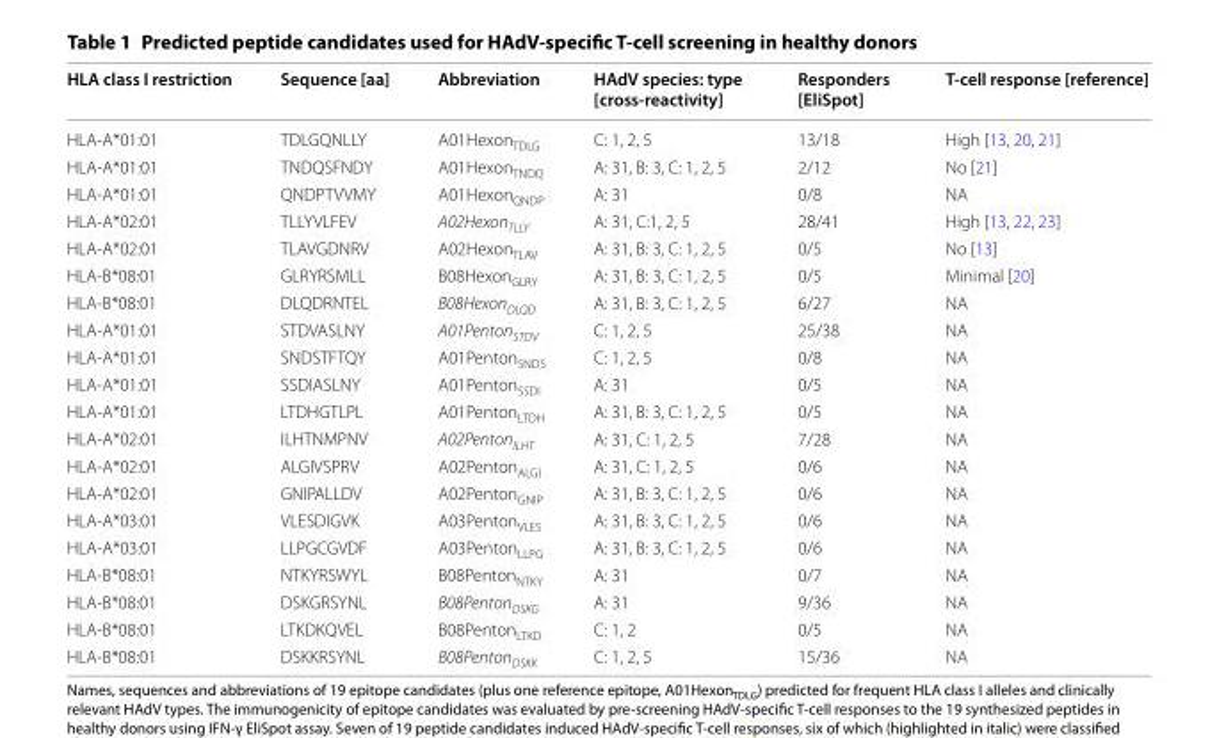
<table><thead><tr><td>HLA class I restriction</td><td>Sequence [aa]</td><td>Abbreviation</td><td>HAdV species: type [cross-reactivity]</td><td>Responders [EliSpot]</td><td>T-cell response [reference]</td></tr></thead><tbody><tr><td>HLA‑A*01:01</td><td>TDLGQNLLY</td><td>A01Hexon<sub>TDLG</sub></td><td>C: 1, 2, 5</td><td>13/18</td><td>High [13, 20, 21]</td></tr><tr><td>HLA‑A*01:01</td><td>TNDQSFNDY</td><td>A01Hexon<sub>TNDQ</sub></td><td>A: 31, B: 3, C: 1, 2, 5</td><td>2/12</td><td>No [21]</td></tr><tr><td>HLA‑A*01:01</td><td>QNDPTVVMY</td><td>A01Hexon<sub>QNDP</sub></td><td>A: 31</td><td>0/8</td><td>NA</td></tr><tr><td>HLA‑A*02:01</td><td>TLLYVLFEV</td><td>A02Hexon<sub>TLLY</sub></td><td>A: 31, C:1, 2, 5</td><td>28/41</td><td>High [13, 22, 23]</td></tr><tr><td>HLA‑A*02:01</td><td>TLAVGDNRV</td><td>A02Hexon<sub>TLAV</sub></td><td>A: 31, B: 3, C: 1, 2, 5</td><td>0/5</td><td>No [13]</td></tr><tr><td>HLA‑B*08:01</td><td>GLRYRSMLL</td><td>B08Hexon<sub>GLRY</sub></td><td>A: 31, B: 3, C: 1, 2, 5</td><td>0/5</td><td>Minimal [20]</td></tr><tr><td>HLA‑B*08:01</td><td>DLQDRNTEL</td><td>B08Hexon<sub>DLQD</sub></td><td>A: 31, B: 3, C: 1, 2, 5</td><td>6/27</td><td>NA</td></tr><tr><td>HLA‑A*01:01</td><td>STDVASLNY</td><td>A01Penton<sub>STDV</sub></td><td>C: 1, 2, 5</td><td>25/38</td><td>NA</td></tr><tr><td>HLA‑A*01:01</td><td>SNDSTFTQY</td><td>A01Penton<sub>SNDS</sub></td><td>C: 1, 2, 5</td><td>0/8</td><td>NA</td></tr><tr><td>HLA‑A*01:01</td><td>SSDIASLNY</td><td>A01Penton<sub>SSDI</sub></td><td>A: 31</td><td>0/5</td><td>NA</td></tr><tr><td>HLA‑A*01:01</td><td>LTDHGTLPL</td><td>A01Penton<sub>LTDH</sub></td><td>A: 31, B: 3, C: 1, 2, 5</td><td>0/5</td><td>NA</td></tr><tr><td>HLA‑A*02:01</td><td>ILHTNMPNV</td><td>A02Penton<sub>ILHT</sub></td><td>A: 31, C: 1, 2, 5</td><td>7/28</td><td>NA</td></tr><tr><td>HLA‑A*02:01</td><td>ALGIVSPRV</td><td>A02Penton<sub>ALGI</sub></td><td>A: 31, C: 1, 2, 5</td><td>0/6</td><td>NA</td></tr><tr><td>HLA‑A*02:01</td><td>GNIPALLDV</td><td>A02Penton<sub>GNIP</sub></td><td>A: 31, B: 3, C: 1, 2, 5</td><td>0/6</td><td>NA</td></tr><tr><td>HLA‑A*03:01</td><td>VLESDIGVK</td><td>A03Penton<sub>VLES</sub></td><td>A: 31, B: 3, C: 1, 2, 5</td><td>0/6</td><td>NA</td></tr><tr><td>HLA‑A*03:01</td><td>LLPGCGVDF</td><td>A03Penton<sub>LLPG</sub></td><td>A: 31, B: 3, C: 1, 2, 5</td><td>0/6</td><td>NA</td></tr><tr><td>HLA‑B*08:01</td><td>NTKYRSWYL</td><td>B08Penton<sub>NTKY</sub></td><td>A: 31</td><td>0/7</td><td>NA</td></tr><tr><td>HLA‑B*08:01</td><td>DSKGRSYNL</td><td>B08Penton<sub>DSKG</sub></td><td>A: 31</td><td>9/36</td><td>NA</td></tr><tr><td>HLA‑B*08:01</td><td>LTKDKQVEL</td><td>B08Penton<sub>LTKD</sub></td><td>C: 1, 2</td><td>0/5</td><td>NA</td></tr><tr><td>HLA‑B*08:01</td><td>DSKKRSYNL</td><td>B08Penton<sub>DSKK</sub></td><td>C: 1, 2, 5</td><td>15/36</td><td>NA</td></tr></tbody></table>